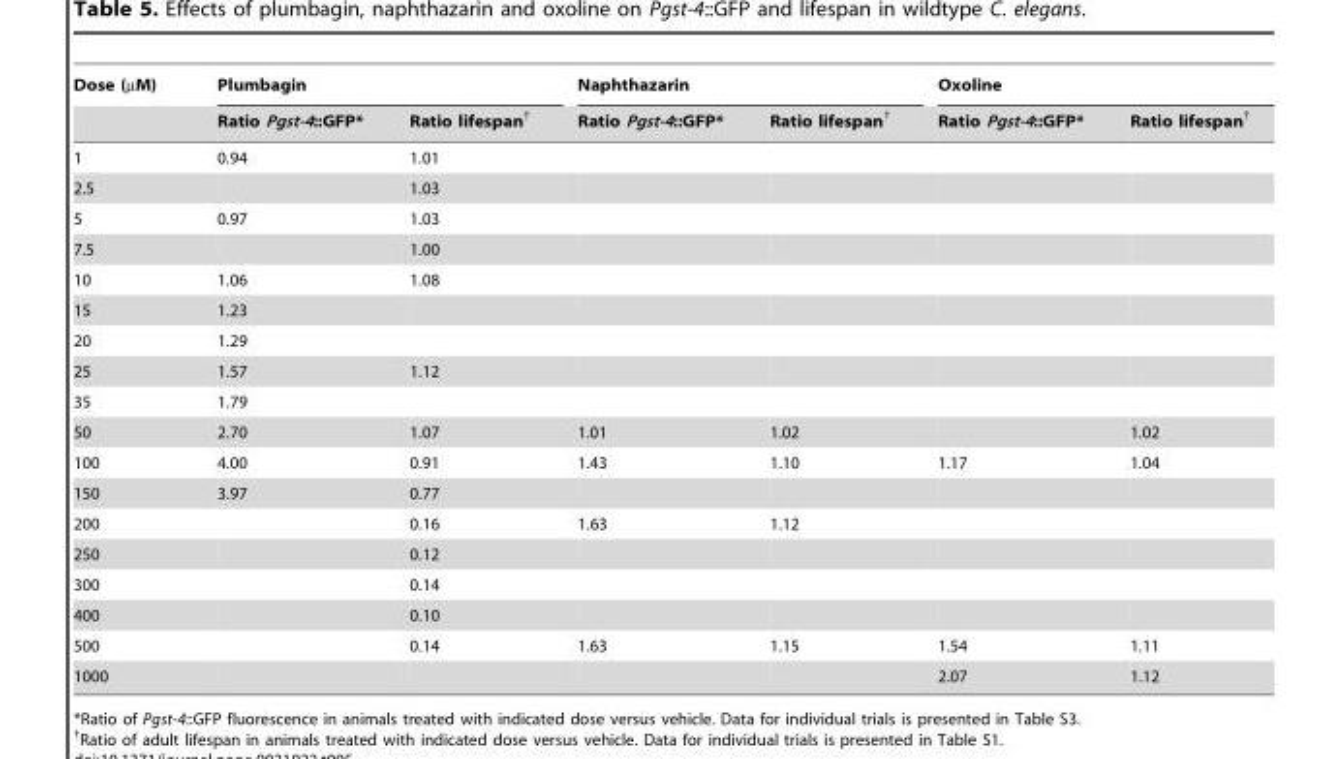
<table><thead><tr><td rowspan="2">Dose (µM)</td><td colspan="2">Plumbagin</td><td colspan="2">Naphthazarin</td><td colspan="2">Oxoline</td></tr><tr><td>Ratio Pgst-4::GFP*</td><td>Ratio lifespan†</td><td>Ratio Pgst-4::GFP*</td><td>Ratio lifespan†</td><td>Ratio Pgst-4::GFP*</td><td>Ratio lifespan†</td></tr></thead><tbody><tr><td>1</td><td>0.94</td><td>1.01</td><td></td><td></td><td></td><td></td></tr><tr><td>2.5</td><td></td><td>1.03</td><td></td><td></td><td></td><td></td></tr><tr><td>5</td><td>0.97</td><td>1.03</td><td></td><td></td><td></td><td></td></tr><tr><td>7.5</td><td></td><td>1.00</td><td></td><td></td><td></td><td></td></tr><tr><td>10</td><td>1.06</td><td>1.08</td><td></td><td></td><td></td><td></td></tr><tr><td>15</td><td>1.23</td><td></td><td></td><td></td><td></td><td></td></tr><tr><td>20</td><td>1.29</td><td></td><td></td><td></td><td></td><td></td></tr><tr><td>25</td><td>1.57</td><td>1.12</td><td></td><td></td><td></td><td></td></tr><tr><td>35</td><td>1.79</td><td></td><td></td><td></td><td></td><td></td></tr><tr><td>50</td><td>2.70</td><td>1.07</td><td>1.01</td><td>1.02</td><td></td><td>1.02</td></tr><tr><td>100</td><td>4.00</td><td>0.91</td><td>1.43</td><td>1.10</td><td>1.17</td><td>1.04</td></tr><tr><td>150</td><td>3.97</td><td>0.77</td><td></td><td></td><td></td><td></td></tr><tr><td>200</td><td></td><td>0.16</td><td>1.63</td><td>1.12</td><td></td><td></td></tr><tr><td>250</td><td></td><td>0.12</td><td></td><td></td><td></td><td></td></tr><tr><td>300</td><td></td><td>0.14</td><td></td><td></td><td></td><td></td></tr><tr><td>400</td><td></td><td>0.10</td><td></td><td></td><td></td><td></td></tr><tr><td>500</td><td></td><td>0.14</td><td>1.63</td><td>1.15</td><td>1.54</td><td>1.11</td></tr><tr><td>1000</td><td></td><td></td><td></td><td></td><td>2.07</td><td>1.12</td></tr></tbody></table>